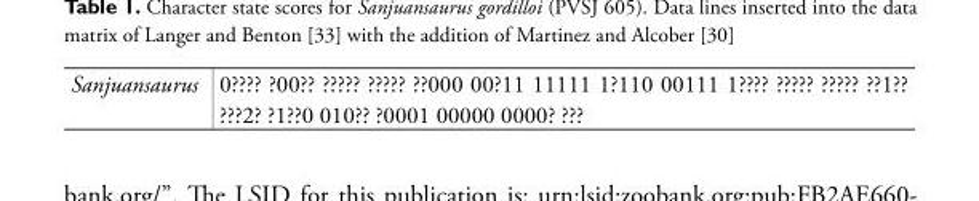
<table><tbody><tr><td>Sanjuansaurus</td><td>0???? ?00?? ????? ????? ??000 00?11 11111 1?110 00111 1???? ????? ????? ??1?? ???2? ?1??0 010?? ?0001 00000 0000? ???</td></tr></tbody></table>